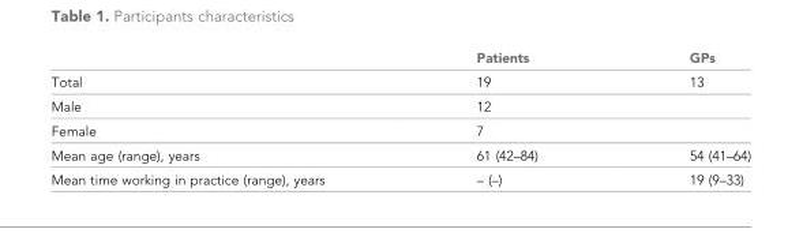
<table><thead><tr><td></td><td>Patients</td><td>GPs</td></tr></thead><tbody><tr><td>Total</td><td>19</td><td>13</td></tr><tr><td>Male</td><td>12</td><td></td></tr><tr><td>Female</td><td>7</td><td></td></tr><tr><td>Mean age (range), years</td><td>61 (42–84)</td><td>54 (41–64)</td></tr><tr><td>Mean time working in practice (range), years</td><td>– (–)</td><td>19 (9–33)</td></tr></tbody></table>